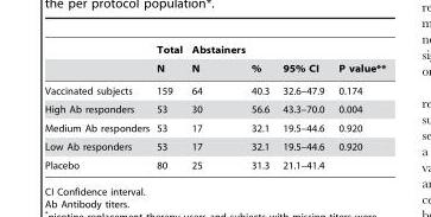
<table><thead><tr><td rowspan="2"></td><td rowspan="2">Total N</td><td rowspan="2">Abstainers N</td><td rowspan="2">%</td><td rowspan="2">95% CI</td><td rowspan="2">P value**</td></tr><tr></tr></thead><tbody><tr><td>Vaccinated subjects</td><td>159</td><td>64</td><td>40.3</td><td>32.6–47.9</td><td>0.174</td></tr><tr><td>High Ab responders</td><td>53</td><td>30</td><td>56.6</td><td>43.3–70.0</td><td>0.004</td></tr><tr><td>Medium Ab responders</td><td>53</td><td>17</td><td>32.1</td><td>19.5–44.6</td><td>0.920</td></tr><tr><td>Low Ab responders</td><td>53</td><td>17</td><td>32.1</td><td>19.5–44.6</td><td>0.920</td></tr><tr><td>Placebo</td><td>80</td><td>25</td><td>31.3</td><td>21.1–41.4</td><td></td></tr></tbody></table>